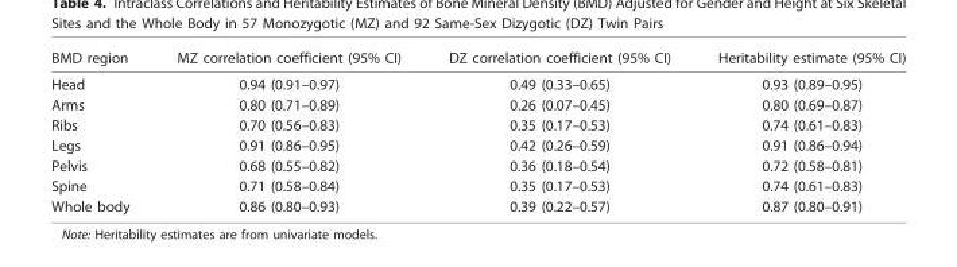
<table><thead><tr><td>BMD region</td><td>MZ correlation coefficient (95% CI)</td><td>DZ correlation coefficient (95% CI)</td><td>Heritability estimate (95% CI)</td></tr></thead><tbody><tr><td>Head</td><td>0.94 (0.91–0.97)</td><td>0.49 (0.33–0.65)</td><td>0.93 (0.89–0.95)</td></tr><tr><td>Arms</td><td>0.80 (0.71–0.89)</td><td>0.26 (0.07–0.45)</td><td>0.80 (0.69–0.87)</td></tr><tr><td>Ribs</td><td>0.70 (0.56–0.83)</td><td>0.35 (0.17–0.53)</td><td>0.74 (0.61–0.83)</td></tr><tr><td>Legs</td><td>0.91 (0.86–0.95)</td><td>0.42 (0.26–0.59)</td><td>0.91 (0.86–0.94)</td></tr><tr><td>Pelvis</td><td>0.68 (0.55–0.82)</td><td>0.36 (0.18–0.54)</td><td>0.72 (0.58–0.81)</td></tr><tr><td>Spine</td><td>0.71 (0.58–0.84)</td><td>0.35 (0.17–0.53)</td><td>0.74 (0.61–0.83)</td></tr><tr><td>Whole body</td><td>0.86 (0.80–0.93)</td><td>0.39 (0.22–0.57)</td><td>0.87 (0.80–0.91)</td></tr></tbody></table>